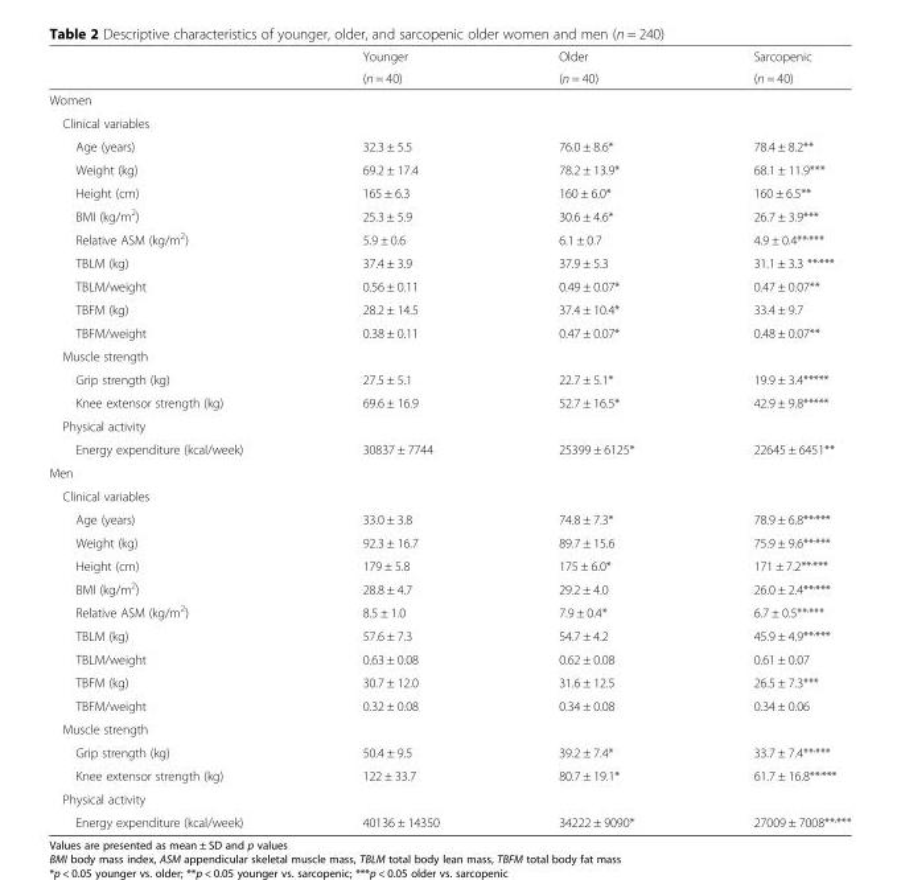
<table><thead><tr><td rowspan="2"></td><td rowspan="2">Younger (n = 40)</td><td rowspan="2">Older (n = 40)</td><td rowspan="2">Sarcopenic (n = 40)</td></tr><tr></tr></thead><tbody><tr><td colspan="4">Women</td></tr><tr><td colspan="4">Clinical variables</td></tr><tr><td>Age (years)</td><td>32.3 ± 5.5</td><td>76.0 ± 8.6*</td><td>78.4 ± 8.2**</td></tr><tr><td>Weight (kg)</td><td>69.2 ± 17.4</td><td>78.2 ± 13.9*</td><td>68.1 ± 11.9***</td></tr><tr><td>Height (cm)</td><td>165 ± 6.3</td><td>160 ± 6.0*</td><td>160 ± 6.5**</td></tr><tr><td>BMI (kg/m<sup>2</sup>)</td><td>25.3 ± 5.9</td><td>30.6 ± 4.6*</td><td>26.7 ± 3.9***</td></tr><tr><td>Relative ASM (kg/m<sup>2</sup>)</td><td>5.9 ± 0.6</td><td>6.1 ± 0.7</td><td>4.9 ± 0.4**<sup>,</sup>***</td></tr><tr><td>TBLM (kg)</td><td>37.4 ± 3.9</td><td>37.9 ± 5.3</td><td>31.1 ± 3.3 **<sup>,</sup>***</td></tr><tr><td>TBLM/weight</td><td>0.56 ± 0.11</td><td>0.49 ± 0.07*</td><td>0.47 ± 0.07**</td></tr><tr><td>TBFM (kg)</td><td>28.2 ± 14.5</td><td>37.4 ± 10.4*</td><td>33.4 ± 9.7</td></tr><tr><td>TBFM/weight</td><td>0.38 ± 0.11</td><td>0.47 ± 0.07*</td><td>0.48 ± 0.07**</td></tr><tr><td colspan="4">Muscle strength</td></tr><tr><td>Grip strength (kg)</td><td>27.5 ± 5.1</td><td>22.7 ± 5.1*</td><td>19.9 ± 3.4*****</td></tr><tr><td>Knee extensor strength (kg)</td><td>69.6 ± 16.9</td><td>52.7 ± 16.5*</td><td>42.9 ± 9.8*****</td></tr><tr><td colspan="4">Physical activity</td></tr><tr><td>Energy expenditure (kcal/week)</td><td>30837 ± 7744</td><td>25399 ± 6125*</td><td>22645 ± 6451**</td></tr><tr><td colspan="4">Men</td></tr><tr><td colspan="4">Clinical variables</td></tr><tr><td>Age (years)</td><td>33.0 ± 3.8</td><td>74.8 ± 7.3*</td><td>78.9 ± 6.8**<sup>,</sup>***</td></tr><tr><td>Weight (kg)</td><td>92.3 ± 16.7</td><td>89.7 ± 15.6</td><td>75.9 ± 9.6**<sup>,</sup>***</td></tr><tr><td>Height (cm)</td><td>179 ± 5.8</td><td>175 ± 6.0*</td><td>171 ± 7.2**<sup>,</sup>***</td></tr><tr><td>BMI (kg/m<sup>2</sup>)</td><td>28.8 ± 4.7</td><td>29.2 ± 4.0</td><td>26.0 ± 2.4**<sup>,</sup>***</td></tr><tr><td>Relative ASM (kg/m<sup>2</sup>)</td><td>8.5 ± 1.0</td><td>7.9 ± 0.4*</td><td>6.7 ± 0.5**<sup>,</sup>***</td></tr><tr><td>TBLM (kg)</td><td>57.6 ± 7.3</td><td>54.7 ± 4.2</td><td>45.9 ± 4.9**<sup>,</sup>***</td></tr><tr><td>TBLM/weight</td><td>0.63 ± 0.08</td><td>0.62 ± 0.08</td><td>0.61 ± 0.07</td></tr><tr><td>TBFM (kg)</td><td>30.7 ± 12.0</td><td>31.6 ± 12.5</td><td>26.5 ± 7.3***</td></tr><tr><td>TBFM/weight</td><td>0.32 ± 0.08</td><td>0.34 ± 0.08</td><td>0.34 ± 0.06</td></tr><tr><td colspan="4">Muscle strength</td></tr><tr><td>Grip strength (kg)</td><td>50.4 ± 9.5</td><td>39.2 ± 7.4*</td><td>33.7 ± 7.4**<sup>,</sup>***</td></tr><tr><td>Knee extensor strength (kg)</td><td>122 ± 33.7</td><td>80.7 ± 19.1*</td><td>61.7 ± 16.8**<sup>,</sup>***</td></tr><tr><td colspan="4">Physical activity</td></tr><tr><td>Energy expenditure (kcal/week)</td><td>40136 ± 14350</td><td>34222 ± 9090*</td><td>27009 ± 7008**<sup>,</sup>***</td></tr></tbody></table>